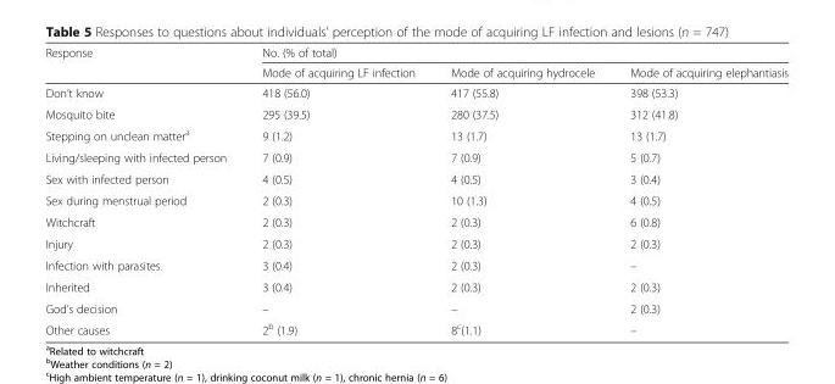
<table><thead><tr><td rowspan="2">Response</td><td colspan="3">No. (% of total)</td></tr><tr><td>Mode of acquiring LF infection</td><td>Mode of acquiring hydrocele</td><td>Mode of acquiring elephantiasis</td></tr></thead><tbody><tr><td>Don’t know</td><td>418 (56.0)</td><td>417 (55.8)</td><td>398 (53.3)</td></tr><tr><td>Mosquito bite</td><td>295 (39.5)</td><td>280 (37.5)</td><td>312 (41.8)</td></tr><tr><td>Stepping on unclean matter<sup>a</sup></td><td>9 (1.2)</td><td>13 (1.7)</td><td>13 (1.7)</td></tr><tr><td>Living/sleeping with infected person</td><td>7 (0.9)</td><td>7 (0.9)</td><td>5 (0.7)</td></tr><tr><td>Sex with infected person</td><td>4 (0.5)</td><td>4 (0.5)</td><td>3 (0.4)</td></tr><tr><td>Sex during menstrual period</td><td>2 (0.3)</td><td>10 (1.3)</td><td>4 (0.5)</td></tr><tr><td>Witchcraft</td><td>2 (0.3)</td><td>2 (0.3)</td><td>6 (0.8)</td></tr><tr><td>Injury</td><td>2 (0.3)</td><td>2 (0.3)</td><td>2 (0.3)</td></tr><tr><td>Infection with parasites</td><td>3 (0.4)</td><td>2 (0.3)</td><td>–</td></tr><tr><td>Inherited</td><td>3 (0.4)</td><td>2 (0.3)</td><td>2 (0.3)</td></tr><tr><td>God’s decision</td><td>–</td><td>–</td><td>2 (0.3)</td></tr><tr><td>Other causes</td><td>2<sup>b</sup> (1.9)</td><td>8<sup>c</sup>(1.1)</td><td>–</td></tr></tbody></table>